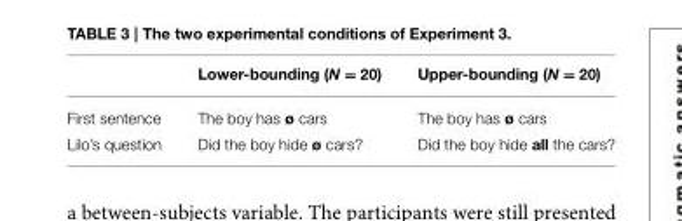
<table><thead><tr><td></td><td>Lower-bounding (N = 20)</td><td>Upper-bounding (N = 20)</td></tr></thead><tbody><tr><td>First sentence</td><td>The boy has ø cars</td><td>The boy has ø cars</td></tr><tr><td>Lilo’s question</td><td>Did the boy hide ø cars?</td><td>Did the boy hide all the cars?</td></tr></tbody></table>